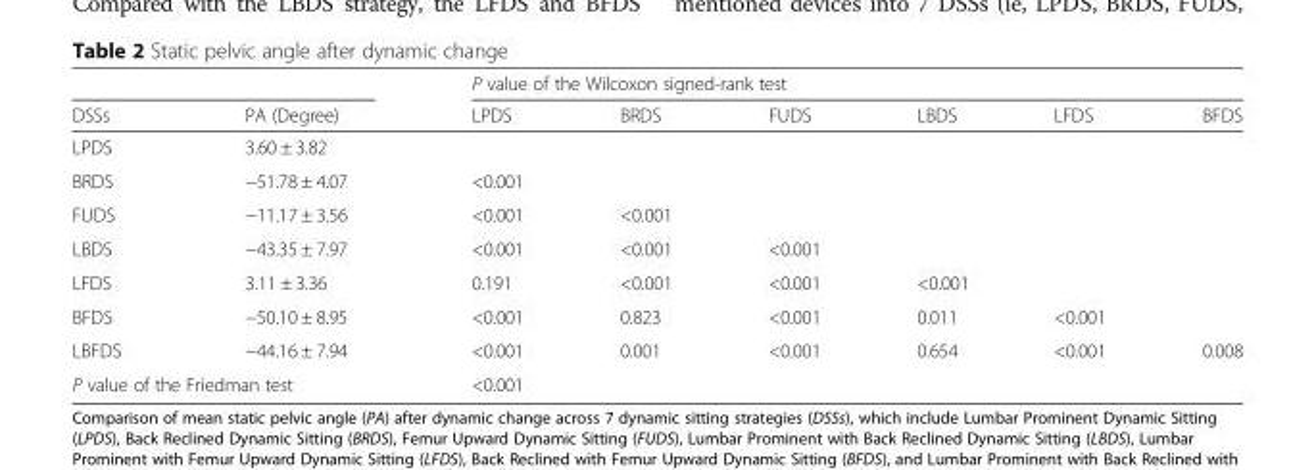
<table><thead><tr><td rowspan="2">DSSs</td><td rowspan="2">PA (Degree)</td><td colspan="6">P value of the Wilcoxon signed-rank test</td></tr><tr><td>LPDS</td><td>BRDS</td><td>FUDS</td><td>LBDS</td><td>LFDS</td><td>BFDS</td></tr></thead><tbody><tr><td>LPDS</td><td colspan="7">3.60 ± 3.82</td></tr><tr><td>BRDS</td><td>−51.78 ± 4.07</td><td colspan="6">&lt;0.001</td></tr><tr><td>FUDS</td><td>−11.17 ± 3.56</td><td>&lt;0.001</td><td colspan="5">&lt;0.001</td></tr><tr><td>LBDS</td><td>−43.35 ± 7.97</td><td>&lt;0.001</td><td>&lt;0.001</td><td colspan="4">&lt;0.001</td></tr><tr><td>LFDS</td><td>3.11 ± 3.36</td><td>0.191</td><td>&lt;0.001</td><td>&lt;0.001</td><td colspan="3">&lt;0.001</td></tr><tr><td>BFDS</td><td>−50.10 ± 8.95</td><td>&lt;0.001</td><td>0.823</td><td>&lt;0.001</td><td>0.011</td><td colspan="2">&lt;0.001</td></tr><tr><td>LBFDS</td><td>−44.16 ± 7.94</td><td>&lt;0.001</td><td>0.001</td><td>&lt;0.001</td><td>0.654</td><td>&lt;0.001</td><td>0.008</td></tr><tr><td colspan="2">P value of the Friedman test</td><td colspan="6">&lt;0.001</td></tr></tbody></table>